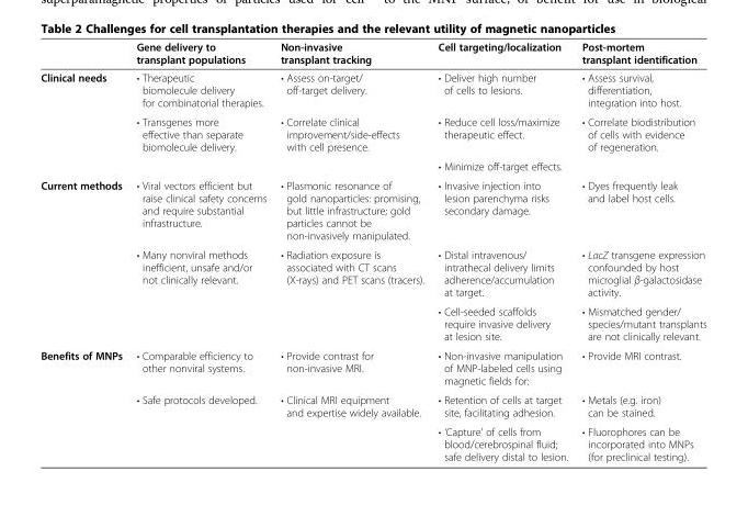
<table><thead><tr><td></td><td>Gene delivery to transplant populations</td><td>Non-invasive transplant tracking</td><td>Cell targeting/localization</td><td>Post-mortem transplant identification</td></tr></thead><tbody><tr><td rowspan="3">Clinical needs</td><td>• Therapeutic biomolecule delivery for combinatorial therapies.</td><td>• Assess on-target/ off-target delivery.</td><td>• Deliver high number of cells to lesions.</td><td>• Assess survival, differentiation, integration into host.</td></tr><tr><td>• Transgenes more effective than separate biomolecule delivery.</td><td>• Correlate clinical improvement/side-effects with cell presence.</td><td>• Reduce cell loss/maximize therapeutic effect.</td><td>• Correlate biodistribution of cells with evidence of regeneration.</td></tr><tr><td></td><td></td><td>• Minimize off-target effects.</td><td></td></tr><tr><td rowspan="3">Current methods</td><td>• Viral vectors efficient but raise clinical safety concerns and require substantial infrastructure.</td><td>• Plasmonic resonance of gold nanoparticles: promising, but little infrastructure; gold particles cannot be non-invasively manipulated.</td><td>• Invasive injection into lesion parenchyma risks secondary damage.</td><td>• Dyes frequently leak and label host cells.</td></tr><tr><td>• Many nonviral methods inefficient, unsafe and/or not clinically relevant.</td><td>• Radiation exposure is associated with CT scans (X-rays) and PET scans (tracers).</td><td>• Distal intravenous/ intrathecal delivery limits adherence/accumulation at target.</td><td>• LacZ transgene expression confounded by host microglial β-galactosidase activity.</td></tr><tr><td></td><td></td><td>• Cell-seeded scaffolds require invasive delivery at lesion site.</td><td>• Mismatched gender/ species/mutant transplants are not clinically relevant.</td></tr><tr><td rowspan="3">Benefits of MNPs</td><td>• Comparable efficiency to other nonviral systems.</td><td>• Provide contrast for non-invasive MRI.</td><td>• Non-invasive manipulation of MNP-labeled cells using magnetic fields for:</td><td>• Provide MRI contrast.</td></tr><tr><td>• Safe protocols developed.</td><td>• Clinical MRI equipment and expertise widely available.</td><td>• Retention of cells at target site, facilitating adhesion.</td><td>• Metals (e.g. iron) can be stained.</td></tr><tr><td></td><td></td><td>• ‘Capture’ of cells from blood/cerebrospinal fluid; safe delivery distal to lesion.</td><td>• Fluorophores can be incorporated into MNPs (for preclinical testing).</td></tr></tbody></table>